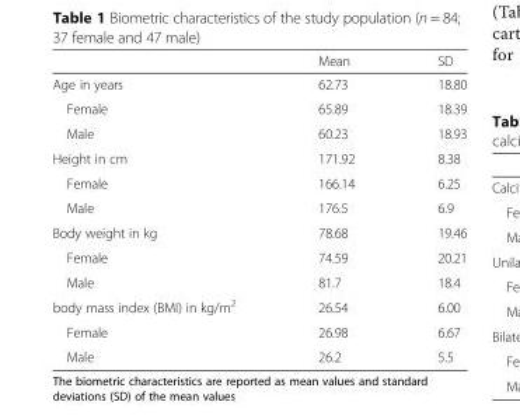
<table><thead><tr><td></td><td>Mean</td><td>SD</td></tr></thead><tbody><tr><td>Age in years</td><td>62.73</td><td>18.80</td></tr><tr><td>Female</td><td>65.89</td><td>18.39</td></tr><tr><td>Male</td><td>60.23</td><td>18.93</td></tr><tr><td>Height in cm</td><td>171.92</td><td>8.38</td></tr><tr><td>Female</td><td>166.14</td><td>6.25</td></tr><tr><td>Male</td><td>176.5</td><td>6.9</td></tr><tr><td>Body weight in kg</td><td>78.68</td><td>19.46</td></tr><tr><td>Female</td><td>74.59</td><td>20.21</td></tr><tr><td>Male</td><td>81.7</td><td>18.4</td></tr><tr><td>body mass index (BMI) in kg/m<sup>2</sup></td><td>26.54</td><td>6.00</td></tr><tr><td>Female</td><td>26.98</td><td>6.67</td></tr><tr><td>Male</td><td>26.2</td><td>5.5</td></tr></tbody></table>